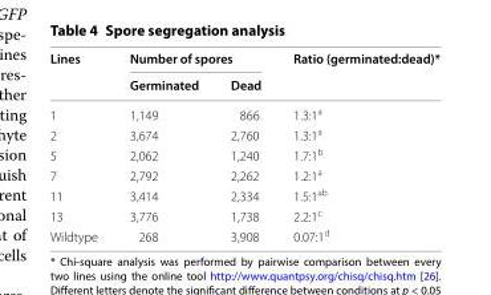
<table><thead><tr><td rowspan="2">Lines</td><td colspan="2">Number of spores</td><td rowspan="2">Ratio (germinated:dead)*</td></tr><tr><td>Germinated</td><td>Dead</td></tr></thead><tbody><tr><td>1</td><td>1,149</td><td>866</td><td>1.3:1<sup>a</sup></td></tr><tr><td>2</td><td>3,674</td><td>2,760</td><td>1.3:1<sup>a</sup></td></tr><tr><td>5</td><td>2,062</td><td>1,240</td><td>1.7:1<sup>b</sup></td></tr><tr><td>7</td><td>2,792</td><td>2,262</td><td>1.2:1<sup>a</sup></td></tr><tr><td>11</td><td>3,414</td><td>2,334</td><td>1.5:1<sup>ab</sup></td></tr><tr><td>13</td><td>3,776</td><td>1,738</td><td>2.2:1<sup>c</sup></td></tr><tr><td>Wildtype</td><td>268</td><td>3,908</td><td>0.07:1<sup>d</sup></td></tr></tbody></table>